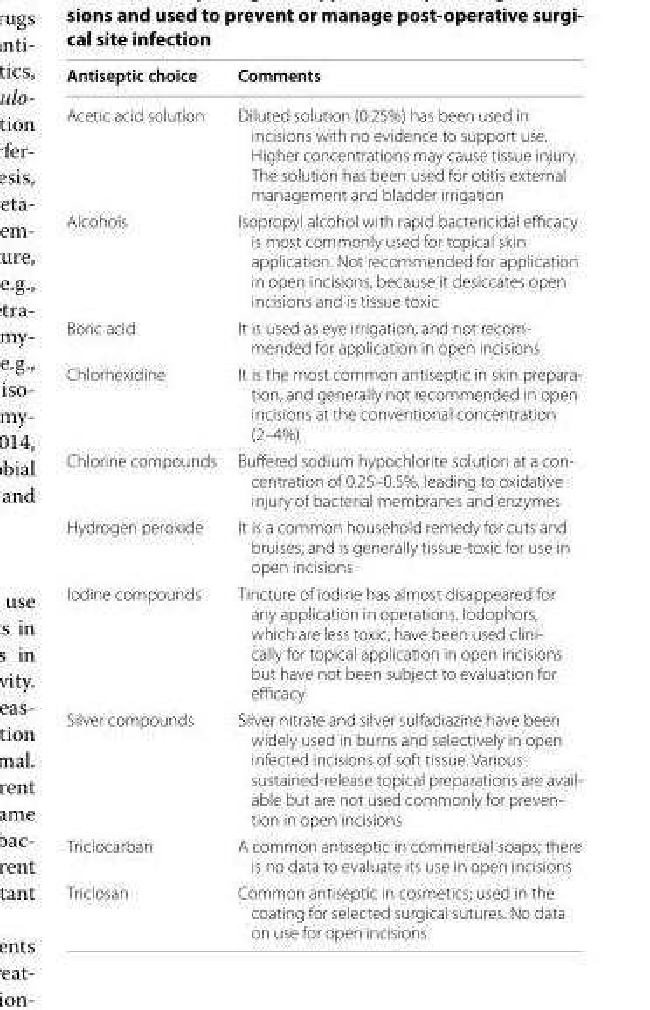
<table><thead><tr><td>Antiseptic choice</td><td>Comments</td></tr></thead><tbody><tr><td>Acetic acid solution</td><td>Diluted solution (0.25%) has been used in incisions with no evidence to support use. Higher concentrations may cause tissue injury. The solution has been used for otitis external management and bladder irrigation</td></tr><tr><td>Alcohols</td><td>Isopropyl alcohol with rapid bactericidal efficacy is most commonly used for topical skin application. Not recommended for application in open incisions, because it desiccates open incisions and is tissue toxic</td></tr><tr><td>Boric acid</td><td>It is used as eye irrigation, and not recom- mended for application in open incisions</td></tr><tr><td>Chlorhexidine</td><td>It is the most common antiseptic in skin prepara- tion, and generally not recommended in open incisions at the conventional concentration (2–4%)</td></tr><tr><td>Chlorine compounds</td><td>Buffered sodium hypochlorite solution at a con- centration of 0.25–0.5%, leading to oxidative injury of bacterial membranes and enzymes</td></tr><tr><td>Hydrogen peroxide</td><td>It is a common household remedy for cuts and bruises, and is generally tissue-toxic for use in open incisions</td></tr><tr><td>Iodine compounds</td><td>Tincture of iodine has almost disappeared for any application in operations. Iodophors, which are less toxic, have been used clini- cally for topical application in open incisions but have not been subject to evaluation for efficacy</td></tr><tr><td>Silver compounds</td><td>Silver nitrate and silver sulfadiazine have been widely used in burns and selectively in open infected incisions of soft tissue. Various sustained-release topical preparations are avail- able but are not used commonly for preven- tion in open incisions</td></tr><tr><td>Triclocarban</td><td>A common antiseptic in commercial soaps; there is no data to evaluate its use in open incisions</td></tr><tr><td>Triclosan</td><td>Common antiseptic in cosmetics; used in the coating for selected surgical sutures. No data on use for open incisions</td></tr></tbody></table>